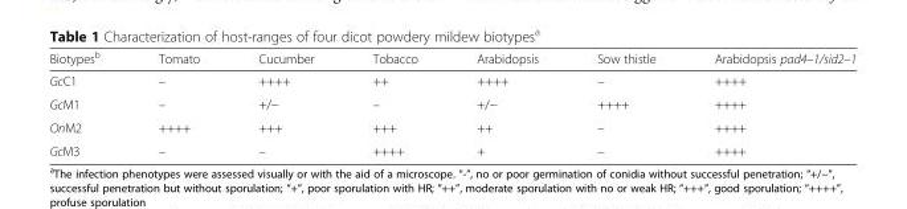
<table><thead><tr><td>Biotypes<sup>b</sup></td><td>Tomato</td><td>Cucumber</td><td>Tobacco</td><td>Arabidopsis</td><td>Sow thistle</td><td>Arabidopsis pad4–1/sid2–1</td></tr></thead><tbody><tr><td>GcC1</td><td>–</td><td>++++</td><td>++</td><td>++++</td><td>–</td><td>++++</td></tr><tr><td>GcM1</td><td>–</td><td>+/−</td><td>–</td><td>+/−</td><td>++++</td><td>++++</td></tr><tr><td>OnM2</td><td>++++</td><td>+++</td><td>+++</td><td>++</td><td>–</td><td>++++</td></tr><tr><td>GcM3</td><td>–</td><td>–</td><td>++++</td><td>+</td><td>–</td><td>++++</td></tr></tbody></table>